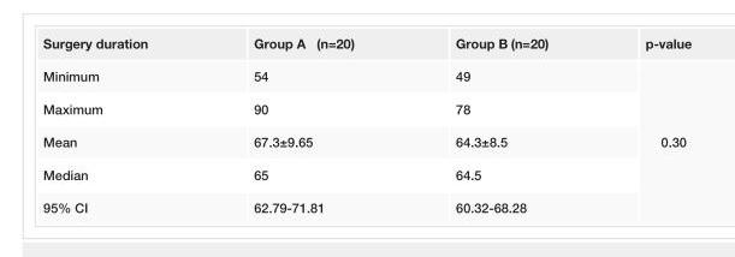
<table><tbody><tr><td>Surgery duration</td><td>Group A (n=20)</td><td>Group B (n=20)</td><td>p-value</td></tr><tr><td>Minimum</td><td>54</td><td>49</td><td rowspan="5">0.30</td></tr><tr><td>Maximum</td><td>90</td><td>78</td></tr><tr><td>Mean</td><td>67.3±9.65</td><td>64.3±8.5</td></tr><tr><td>Median</td><td>65</td><td>64.5</td></tr><tr><td>95% CI</td><td>62.79-71.81</td><td>60.32-68.28</td></tr></tbody></table>